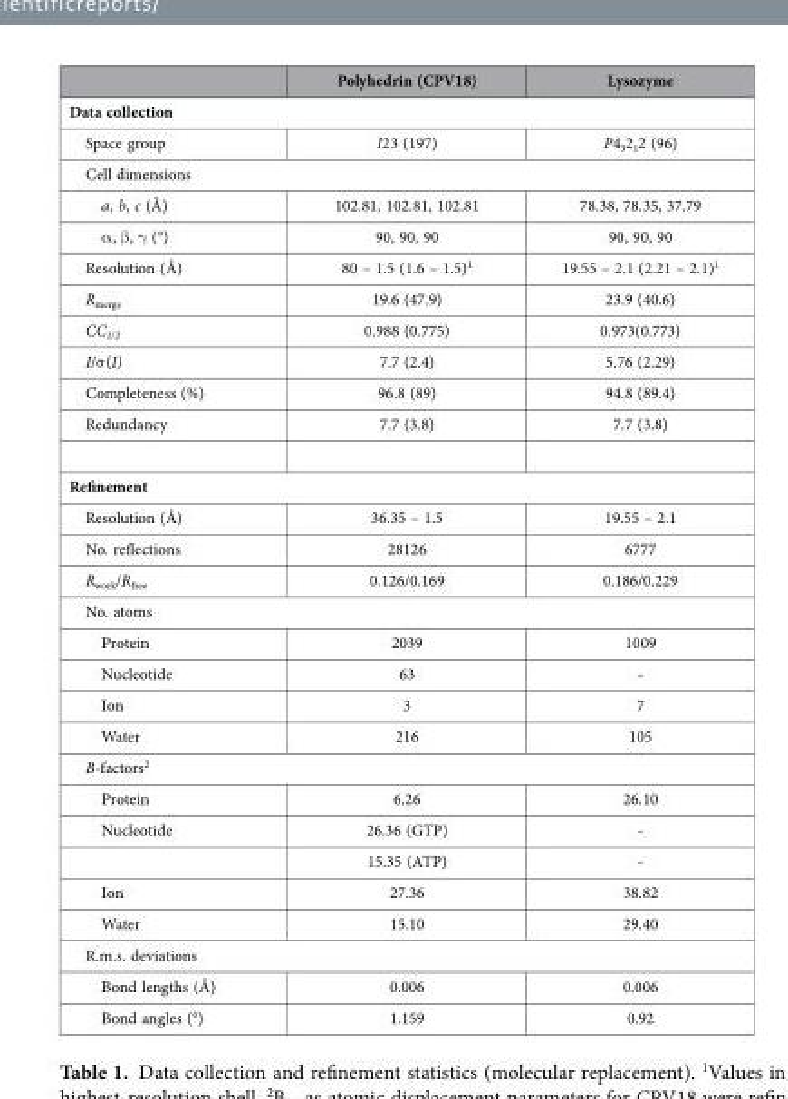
<table><thead><tr><td></td><td>Polyhedrin (CPV18)</td><td>Lysozyme</td></tr></thead><tbody><tr><td colspan="3">Data collection</td></tr><tr><td>Space group</td><td>I23 (197)</td><td>P4<sub>3</sub>2<sub>1</sub>2 (96)</td></tr><tr><td colspan="3">Cell dimensions</td></tr><tr><td>a, b, c (Å)</td><td>102.81, 102.81, 102.81</td><td>78.38, 78.35, 37.79</td></tr><tr><td>α , β , γ (°)</td><td>90, 90, 90</td><td>90, 90, 90</td></tr><tr><td>Resolution (Å)</td><td>80 – 1.5 (1.6 – 1.5)<sup>1</sup></td><td>19.55 – 2.1 (2.21 – 2.1)<sup>1</sup></td></tr><tr><td>R<sub>merge</sub></td><td>19.6 (47.9)</td><td>23.9 (40.6)</td></tr><tr><td>CC<sub>1/2</sub></td><td>0.988 (0.775)</td><td>0.973(0.773)</td></tr><tr><td>I/σ (I)</td><td>7.7 (2.4)</td><td>5.76 (2.29)</td></tr><tr><td>Completeness (%)</td><td>96.8 (89)</td><td>94.8 (89.4)</td></tr><tr><td>Redundancy</td><td>7.7 (3.8)</td><td>7.7 (3.8)</td></tr><tr><td colspan="3">Refinement</td></tr><tr><td>Resolution (Å)</td><td>36.35 – 1.5</td><td>19.55 – 2.1</td></tr><tr><td>No. reflections</td><td>28126</td><td>6777</td></tr><tr><td>R<sub>work</sub>/R<sub>free</sub></td><td>0.126/0.169</td><td>0.186/0.229</td></tr><tr><td colspan="3">No. atoms</td></tr><tr><td>Protein</td><td>2039</td><td>1009</td></tr><tr><td>Nucleotide</td><td>63</td><td>-</td></tr><tr><td>Ion</td><td>3</td><td>7</td></tr><tr><td>Water</td><td>216</td><td>105</td></tr><tr><td colspan="3">B-factors<sup>2</sup></td></tr><tr><td>Protein</td><td>6.26</td><td>26.10</td></tr><tr><td rowspan="2">Nucleotide</td><td>26.36 (GTP)</td><td>-</td></tr><tr><td>15.35 (ATP)</td><td>-</td></tr><tr><td>Ion</td><td>27.36</td><td>38.82</td></tr><tr><td>Water</td><td>15.10</td><td>29.40</td></tr><tr><td colspan="3">R.m.s. deviations</td></tr><tr><td>Bond lengths (Å)</td><td>0.006</td><td>0.006</td></tr><tr><td>Bond angles (°)</td><td>1.159</td><td>0.92</td></tr></tbody></table>